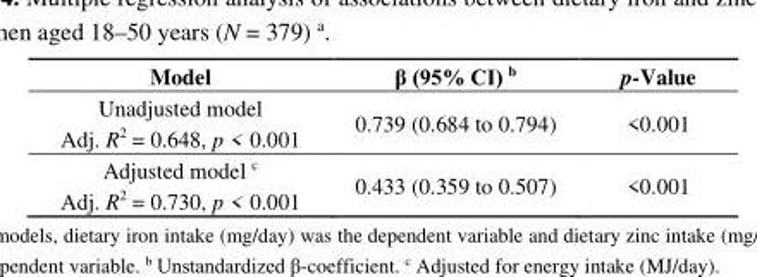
<table><thead><tr><td>Model</td><td>β (95% CI) <sup>b</sup></td><td>p-Value</td></tr></thead><tbody><tr><td>Unadjusted model Adj. R<sup>2</sup> = 0.648, p &lt; 0.001</td><td>0.739 (0.684 to 0.794)</td><td>&lt;0.001</td></tr><tr><td>Adjusted model <sup>c</sup> Adj. R<sup>2</sup> = 0.730, p &lt; 0.001</td><td>0.433 (0.359 to 0.507)</td><td>&lt;0.001</td></tr></tbody></table>